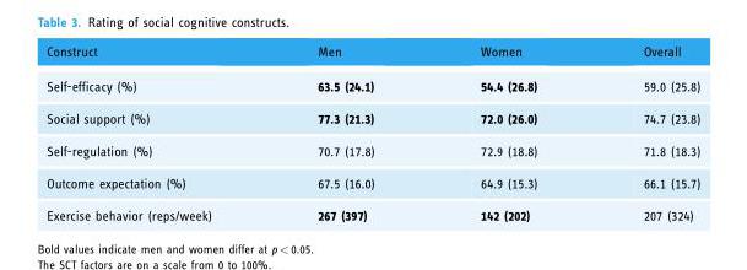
<table><thead><tr><td>Construct</td><td>Men</td><td>Women</td><td>Overall</td></tr></thead><tbody><tr><td>Self-efficacy (%)</td><td>63.5 (24.1)</td><td>54.4 (26.8)</td><td>59.0 (25.8)</td></tr><tr><td>Social support (%)</td><td>77.3 (21.3)</td><td>72.0 (26.0)</td><td>74.7 (23.8)</td></tr><tr><td>Self-regulation (%)</td><td>70.7 (17.8)</td><td>72.9 (18.8)</td><td>71.8 (18.3)</td></tr><tr><td>Outcome expectation (%)</td><td>67.5 (16.0)</td><td>64.9 (15.3)</td><td>66.1 (15.7)</td></tr><tr><td>Exercise behavior (reps/week)</td><td>267 (397)</td><td>142 (202)</td><td>207 (324)</td></tr></tbody></table>